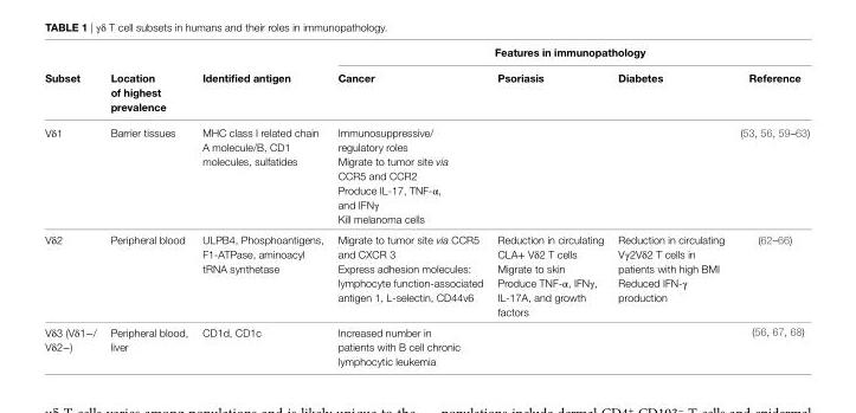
<table><thead><tr><td rowspan="2">Subset</td><td rowspan="2">Location of highest prevalence</td><td rowspan="2">identified antigen</td><td colspan="4">Features in immunopathology</td></tr><tr><td>Cancer</td><td>Psoriasis</td><td>Diabetes</td><td>Reference</td></tr></thead><tbody><tr><td>Vδ1</td><td>Barrier tissues</td><td>MHC class I related chain A molecule/B, CD1 molecules, sulfatides</td><td>Immunosuppressive/ regulatory roles Migrate to tumor site via CCR5 and CCR2 Produce IL-17, TNF-α, and IFNγ Kill melanoma cells</td><td></td><td></td><td>(53, 56, 59–63)</td></tr><tr><td>Vδ2</td><td>Peripheral blood</td><td>ULPB4, Phosphoantigens, F1-ATPase, aminoacyl tRNA synthetase</td><td>Migrate to tumor site via CCR5 and CXCR 3 Express adhesion molecules: lymphocyte function-associated antigen 1, L-selectin, CD44v6</td><td>Reduction in circulating CLA+ Vδ2 T cells Migrate to skin Produce TNF-α, IFNγ, IL-17A, and growth factors</td><td>Reduction in circulating Vγ2Vδ2 T cells in patients with high BMI Reduced IFN-γ production</td><td>(62–66)</td></tr><tr><td>Vδ3 (Vδ1−/ Vδ2−)</td><td>Peripheral blood, liver</td><td>CD1d, CD1c</td><td>Increased number in patients with B cell chronic lymphocytic leukemia</td><td></td><td></td><td>(56, 67, 68)</td></tr></tbody></table>